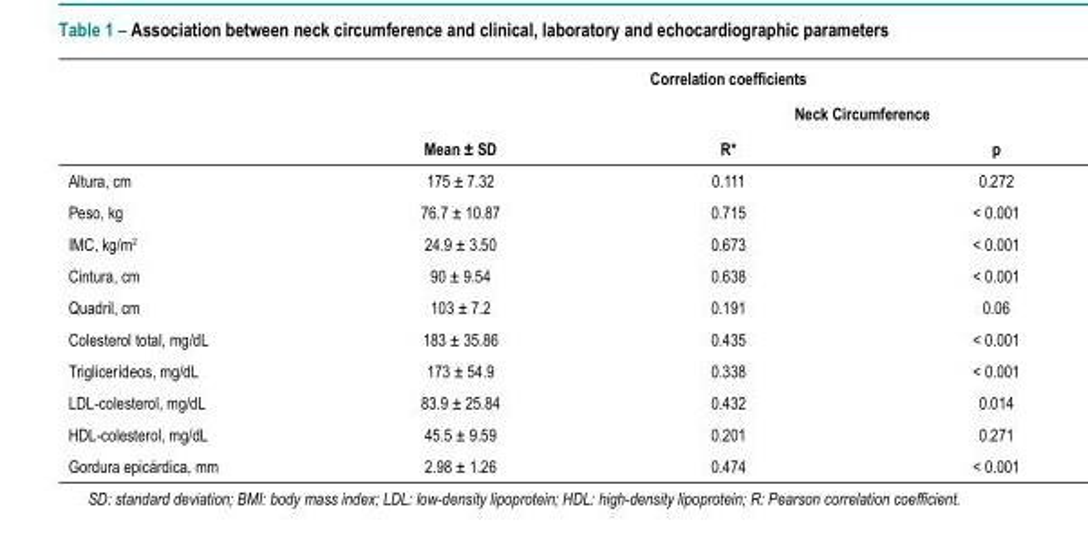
<table><thead><tr><td rowspan="3"></td><td colspan="3">Correlation coefficients</td></tr><tr><td rowspan="2">Mean ± SD</td><td colspan="2">Neck Circumference</td></tr><tr><td>R*</td><td>p</td></tr></thead><tbody><tr><td>Altura, cm</td><td>175 ± 7.32</td><td>0.111</td><td>0.272</td></tr><tr><td>Peso, kg</td><td>76.7 ± 10.87</td><td>0.715</td><td>&lt; 0.001</td></tr><tr><td>IMC, kg/m<sup>2</sup></td><td>24.9 ± 3.50</td><td>0.673</td><td>&lt; 0.001</td></tr><tr><td>Cintura, cm</td><td>90 ± 9.54</td><td>0.638</td><td>&lt; 0.001</td></tr><tr><td>Quadril, cm</td><td>103 ± 7.2</td><td>0.191</td><td>0.06</td></tr><tr><td>Colesterol total, mg/dL</td><td>183 ± 35.86</td><td>0.435</td><td>&lt; 0.001</td></tr><tr><td>Triglicerídeos, mg/dL</td><td>173 ± 54.9</td><td>0.338</td><td>&lt; 0.001</td></tr><tr><td>LDL-colesterol, mg/dL</td><td>83.9 ± 25.84</td><td>0.432</td><td>0.014</td></tr><tr><td>HDL-colesterol, mg/dL</td><td>45.5 ± 9.59</td><td>0.201</td><td>0.271</td></tr><tr><td>Gordura epicárdica, mm</td><td>2.98 ± 1.26</td><td>0.474</td><td>&lt; 0.001</td></tr></tbody></table>